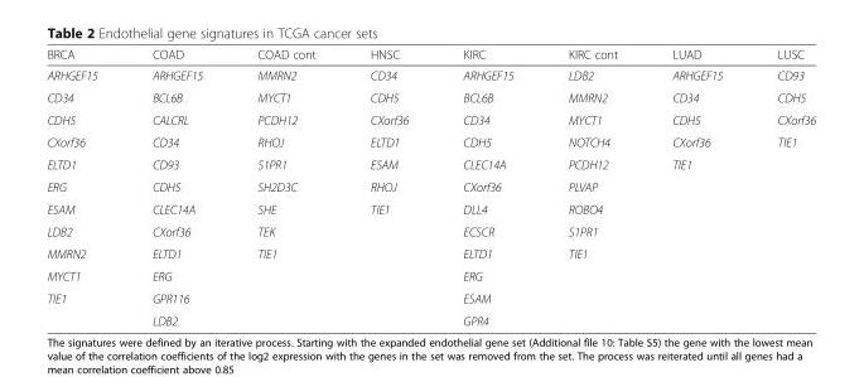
<table><thead><tr><td>BRCA</td><td>COAD</td><td>COAD cont</td><td>HNSC</td><td>KIRC</td><td>KIRC cont</td><td>LUAD</td><td>LUSC</td></tr></thead><tbody><tr><td>ARHGEF15</td><td>ARHGEF15</td><td>MMRN2</td><td>CD34</td><td>ARHGEF15</td><td>LDB2</td><td>ARHGEF15</td><td>CD93</td></tr><tr><td>CD34</td><td>BCL6B</td><td>MYCT1</td><td>CDH5</td><td>BCL6B</td><td>MMRN2</td><td>CD34</td><td>CDH5</td></tr><tr><td>CDH5</td><td>CALCRL</td><td>PCDH12</td><td>CXorf36</td><td>CD34</td><td>MYCT1</td><td>CDH5</td><td>CXorf36</td></tr><tr><td>CXorf36</td><td>CD34</td><td>RHOJ</td><td>ELTD1</td><td>CDH5</td><td>NOTCH4</td><td>CXorf36</td><td>TIE1</td></tr><tr><td>ELTD1</td><td>CD93</td><td>S1PR1</td><td>ESAM</td><td>CLEC14A</td><td>PCDH12</td><td>TIE1</td><td></td></tr><tr><td>ERG</td><td>CDH5</td><td>SH2D3C</td><td>RHOJ</td><td>CXorf36</td><td>PLVAP</td><td></td><td></td></tr><tr><td>ESAM</td><td>CLEC14A</td><td>SHE</td><td>TIE1</td><td>DLL4</td><td>ROBO4</td><td></td><td></td></tr><tr><td>LDB2</td><td>CXorf36</td><td>TEK</td><td></td><td>ECSCR</td><td>S1PR1</td><td></td><td></td></tr><tr><td>MMRN2</td><td>ELTD1</td><td>TIE1</td><td></td><td>ELTD1</td><td>TIE1</td><td></td><td></td></tr><tr><td>MYCT1</td><td>ERG</td><td></td><td></td><td>ERG</td><td></td><td></td><td></td></tr><tr><td rowspan="2">TIE1</td><td>GPR116</td><td></td><td></td><td>ESAM</td><td></td><td></td><td></td></tr><tr><td>LDB2</td><td></td><td></td><td>GPR4</td><td></td><td></td><td></td></tr></tbody></table>